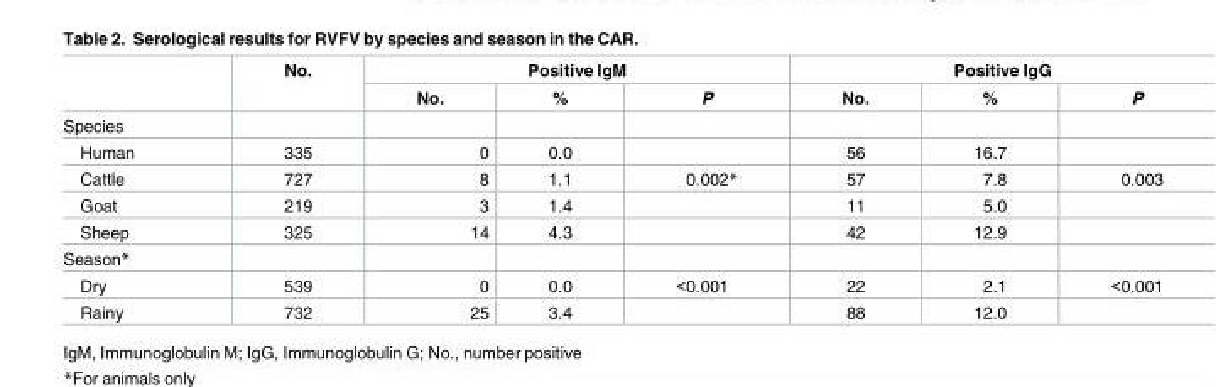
<table><thead><tr><td rowspan="2"></td><td rowspan="2">No.</td><td colspan="3">Positive IgM</td><td colspan="3">Positive IgG</td></tr><tr><td>No.</td><td>%</td><td>P</td><td>No.</td><td>%</td><td>P</td></tr></thead><tbody><tr><td colspan="8">Species</td></tr><tr><td>Human</td><td>335</td><td>0</td><td>0.0</td><td></td><td>56</td><td>16.7</td><td></td></tr><tr><td>Cattle</td><td>727</td><td>8</td><td>1.1</td><td>0.002*</td><td>57</td><td>7.8</td><td>0.003</td></tr><tr><td>Goat</td><td>219</td><td>3</td><td>1.4</td><td></td><td>11</td><td>5.0</td><td></td></tr><tr><td>Sheep</td><td>325</td><td>14</td><td>4.3</td><td></td><td>42</td><td>12.9</td><td></td></tr><tr><td colspan="8">Season*</td></tr><tr><td>Dry</td><td>539</td><td>0</td><td>0.0</td><td>&lt;0.001</td><td>22</td><td>2.1</td><td>&lt;0.001</td></tr><tr><td>Rainy</td><td>732</td><td>25</td><td>3.4</td><td></td><td>88</td><td>12.0</td><td></td></tr></tbody></table>